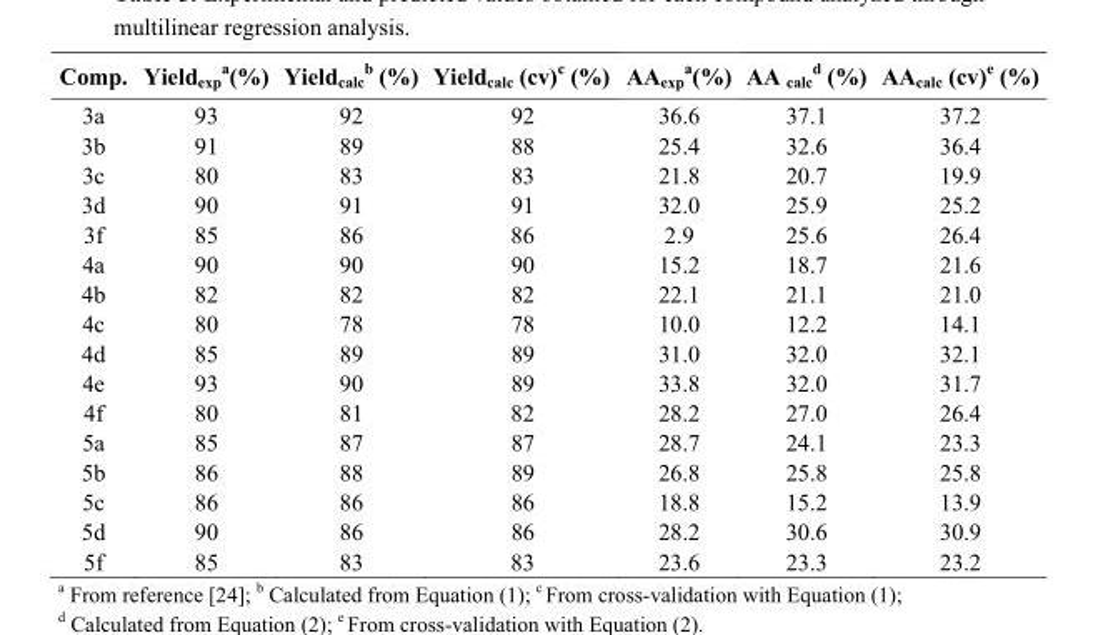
<table><thead><tr><td>Comp.</td><td>Yield<sub>exp</sub> <sup>a</sup>(%)</td><td>Yield<sub>calc</sub> <sup>b</sup> (%)</td><td>Yield<sub>calc</sub> (cv)<sup>c</sup> (%)</td><td>AA<sub>exp</sub> <sup>a</sup>(%)</td><td>AA <sub>calc</sub> <sup>d</sup> (%)</td><td>AA<sub>calc</sub> (cv)<sup>e</sup> (%)</td></tr></thead><tbody><tr><td>3a</td><td>93</td><td>92</td><td>92</td><td>36.6</td><td>37.1</td><td>37.2</td></tr><tr><td>3b</td><td>91</td><td>89</td><td>88</td><td>25.4</td><td>32.6</td><td>36.4</td></tr><tr><td>3c</td><td>80</td><td>83</td><td>83</td><td>21.8</td><td>20.7</td><td>19.9</td></tr><tr><td>3d</td><td>90</td><td>91</td><td>91</td><td>32.0</td><td>25.9</td><td>25.2</td></tr><tr><td>3f</td><td>85</td><td>86</td><td>86</td><td>2.9</td><td>25.6</td><td>26.4</td></tr><tr><td>4a</td><td>90</td><td>90</td><td>90</td><td>15.2</td><td>18.7</td><td>21.6</td></tr><tr><td>4b</td><td>82</td><td>82</td><td>82</td><td>22.1</td><td>21.1</td><td>21.0</td></tr><tr><td>4c</td><td>80</td><td>78</td><td>78</td><td>10.0</td><td>12.2</td><td>14.1</td></tr><tr><td>4d</td><td>85</td><td>89</td><td>89</td><td>31.0</td><td>32.0</td><td>32.1</td></tr><tr><td>4e</td><td>93</td><td>90</td><td>89</td><td>33.8</td><td>32.0</td><td>31.7</td></tr><tr><td>4f</td><td>80</td><td>81</td><td>82</td><td>28.2</td><td>27.0</td><td>26.4</td></tr><tr><td>5a</td><td>85</td><td>87</td><td>87</td><td>28.7</td><td>24.1</td><td>23.3</td></tr><tr><td>5b</td><td>86</td><td>88</td><td>89</td><td>26.8</td><td>25.8</td><td>25.8</td></tr><tr><td>5c</td><td>86</td><td>86</td><td>86</td><td>18.8</td><td>15.2</td><td>13.9</td></tr><tr><td>5d</td><td>90</td><td>86</td><td>86</td><td>28.2</td><td>30.6</td><td>30.9</td></tr><tr><td>5f</td><td>85</td><td>83</td><td>83</td><td>23.6</td><td>23.3</td><td>23.2</td></tr></tbody></table>